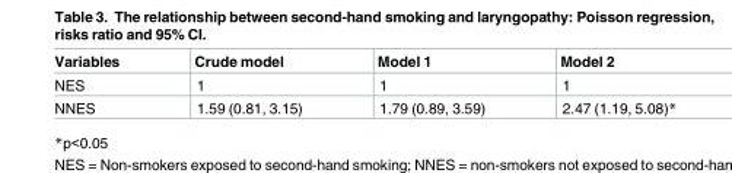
<table><thead><tr><td>Variables</td><td>Crude model</td><td>Model 1</td><td>Model 2</td></tr></thead><tbody><tr><td>NES</td><td>1</td><td>1</td><td>1</td></tr><tr><td>NNES</td><td>1.59 (0.81, 3.15)</td><td>1.79 (0.89, 3.59)</td><td>2.47 (1.19, 5.08)*</td></tr></tbody></table>